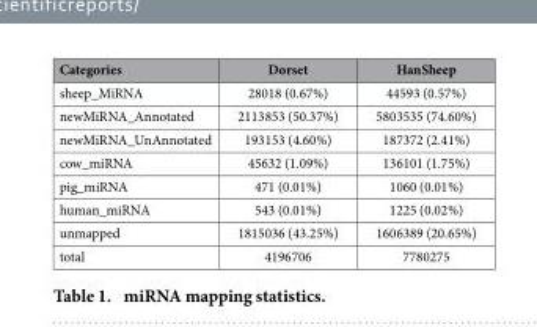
<table><thead><tr><td>Categories</td><td>Dorset</td><td>HanSheep</td></tr></thead><tbody><tr><td>sheep_MiRNA</td><td>28018 (0.67%)</td><td>44593 (0.57%)</td></tr><tr><td>newMiRNA_Annotated</td><td>2113853 (50.37%)</td><td>5803535 (74.60%)</td></tr><tr><td>newMiRNA_UnAnnotated</td><td>193153 (4.60%)</td><td>187372 (2.41%)</td></tr><tr><td>cow_miRNA</td><td>45632 (1.09%)</td><td>136101 (1.75%)</td></tr><tr><td>pig_miRNA</td><td>471 (0.01%)</td><td>1060 (0.01%)</td></tr><tr><td>human_miRNA</td><td>543 (0.01%)</td><td>1225 (0.02%)</td></tr><tr><td>unmapped</td><td>1815036 (43.25%)</td><td>1606389 (20.65%)</td></tr><tr><td>total</td><td>4196706</td><td>7780275</td></tr></tbody></table>